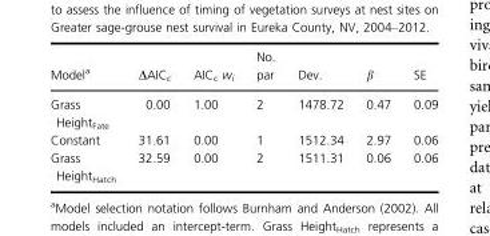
<table><thead><tr><td>Model<sup>a</sup></td><td>ΔAIC<sub>c</sub></td><td>AIC<sub>c</sub> w<sub>i</sub></td><td>No. par</td><td>Dev.</td><td>β</td><td>SE</td></tr></thead><tbody><tr><td>Grass Height<sub>Fate</sub></td><td>0.00</td><td>1.00</td><td>2</td><td>1478.72</td><td>0.47</td><td>0.09</td></tr><tr><td>Constant</td><td>31.61</td><td>0.00</td><td>1</td><td>1512.34</td><td>2.97</td><td>0.06</td></tr><tr><td>Grass Height<sub>Hatch</sub></td><td>32.59</td><td>0.00</td><td>2</td><td>1511.31</td><td>0.06</td><td>0.06</td></tr></tbody></table>